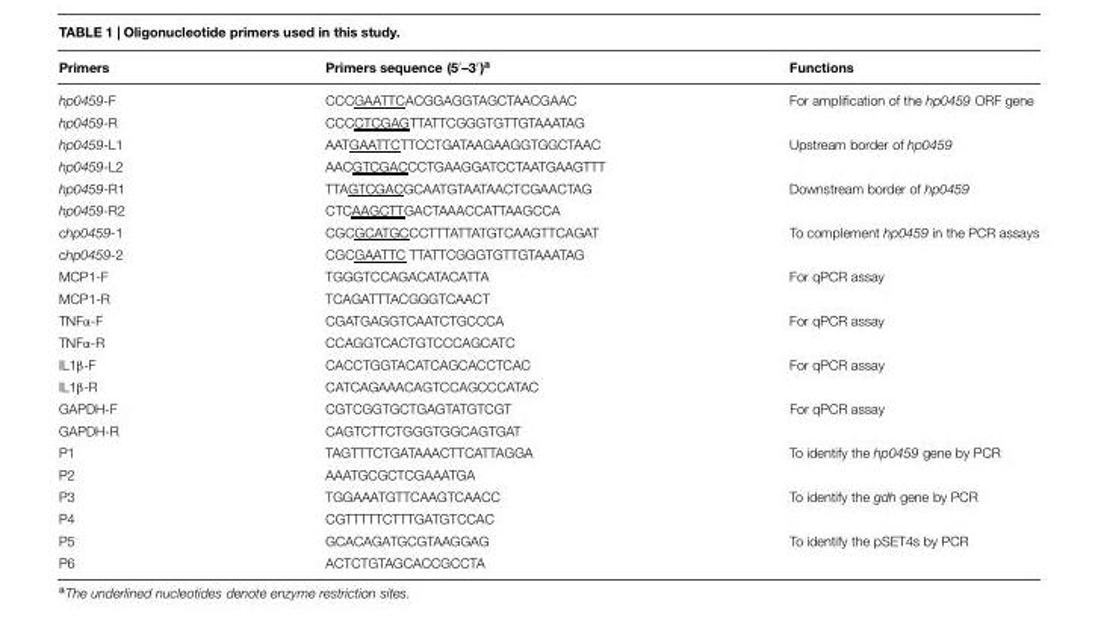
<table><thead><tr><td>Primers</td><td>Primers sequence (5′–3′)<sup>a</sup></td><td>Functions</td></tr></thead><tbody><tr><td>hp0459-F</td><td>CCCGAATTCACGGAGGTAGCTAACGAAC</td><td>For amplification of the hp0459 ORF gene</td></tr><tr><td>hp0459-R</td><td>CCCCTCGAGTTATTCGGGTGTTGTAAATAG</td><td></td></tr><tr><td>hp0459-L1</td><td>AATGAATTCTTCCTGATAAGAAGGTGGCTAAC</td><td>Upstream border of hp0459</td></tr><tr><td>hp0459-L2</td><td>AACGTCGACCCTGAAGGATCCTAATGAAGTTT</td><td></td></tr><tr><td>hp0459-R1</td><td>TTAGTCGACGCAATGTAATAACTCGAACTAG</td><td>Downstream border of hp0459</td></tr><tr><td>hp0459-R2</td><td>CTCAAGCTTGACTAAACCATTAAGCCA</td><td></td></tr><tr><td>chp0459-1</td><td>CGCGCATGCCCTTTATTATGTCAAGTTCAGAT</td><td>To complement hp0459 in the PCR assays</td></tr><tr><td>chp0459-2</td><td>CGCGAATTC TTATTCGGGTGTTGTAAATAG</td><td></td></tr><tr><td>MCP1-F</td><td>TGGGTCCAGACATACATTA</td><td>For qPCR assay</td></tr><tr><td>MCP1-R</td><td>TCAGATTTACGGGTCAACT</td><td></td></tr><tr><td>TNFα-F</td><td>CGATGAGGTCAATCTGCCCA</td><td>For qPCR assay</td></tr><tr><td>TNFα-R</td><td>CCAGGTCACTGTCCCAGCATC</td><td></td></tr><tr><td>IL1β-F</td><td>CACCTGGTACATCAGCACCTCAC</td><td>For qPCR assay</td></tr><tr><td>IL1β-R</td><td>CATCAGAAACAGTCCAGCCCATAC</td><td></td></tr><tr><td>GAPDH-F</td><td>CGTCGGTGCTGAGTATGTCGT</td><td>For qPCR assay</td></tr><tr><td>GAPDH-R</td><td>CAGTCTTCTGGGTGGCAGTGAT</td><td></td></tr><tr><td>P1</td><td>TAGTTTCTGATAAACTTCATTAGGA</td><td>To identify the hp0459 gene by PCR</td></tr><tr><td>P2</td><td>AAATGCGCTCGAAATGA</td><td></td></tr><tr><td>P3</td><td>TGGAAATGTTCAAGTCAACC</td><td>To identify the gdh gene by PCR</td></tr><tr><td>P4</td><td>CGTTTTTCTTTGATGTCCAC</td><td></td></tr><tr><td>P5</td><td>GCACAGATGCGTAAGGAG</td><td>To identify the pSET4s by PCR</td></tr><tr><td>P6</td><td>ACTCTGTAGCACCGCCTA</td><td></td></tr></tbody></table>